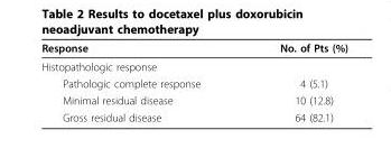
<table><thead><tr><td>Response</td><td>No. of Pts (%)</td></tr></thead><tbody><tr><td colspan="2">Histopathologic response</td></tr><tr><td>Pathologic complete response</td><td>4 (5.1)</td></tr><tr><td>Minimal residual disease</td><td>10 (12.8)</td></tr><tr><td>Gross residual disease</td><td>64 (82.1)</td></tr></tbody></table>